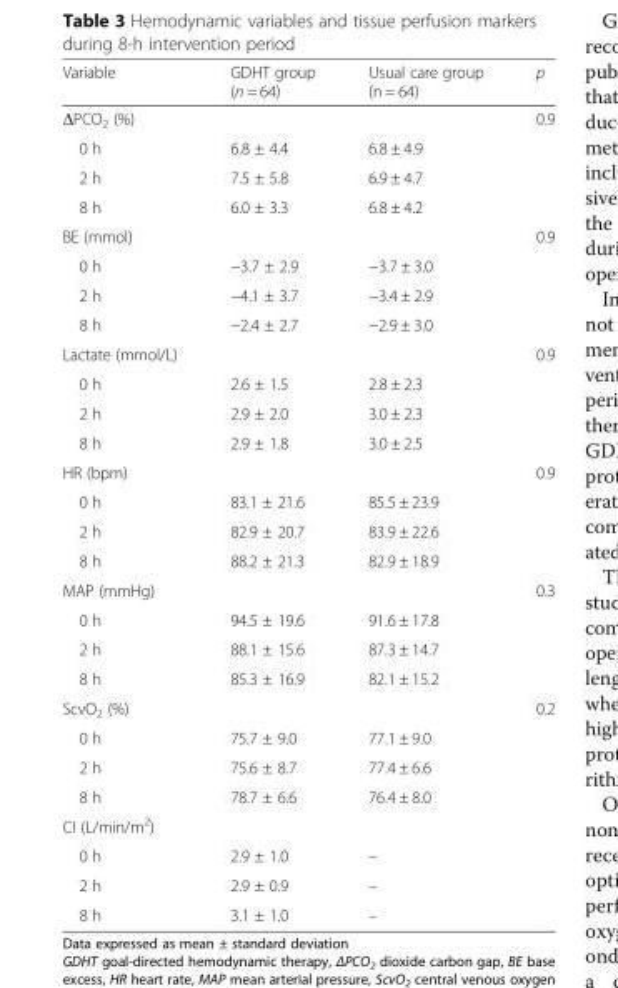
<table><thead><tr><td>Variable</td><td>GDHT group (n = 64)</td><td>Usual care group (n = 64)</td><td>p</td></tr></thead><tbody><tr><td>ΔPCO<sub>2</sub> (%)</td><td></td><td></td><td>0.9</td></tr><tr><td>0 h</td><td>6.8 ± 4.4</td><td>6.8 ± 4.9</td><td></td></tr><tr><td>2 h</td><td>7.5 ± 5.8</td><td>6.9 ± 4.7</td><td></td></tr><tr><td>8 h</td><td>6.0 ± 3.3</td><td>6.8 ± 4.2</td><td></td></tr><tr><td>BE (mmol)</td><td></td><td></td><td>0.9</td></tr><tr><td>0 h</td><td>−3.7 ± 2.9</td><td>−3.7 ± 3.0</td><td></td></tr><tr><td>2 h</td><td>−4.1 ± 3.7</td><td>−3.4 ± 2.9</td><td></td></tr><tr><td>8 h</td><td>−2.4 ± 2.7</td><td>−2.9 ± 3.0</td><td></td></tr><tr><td>Lactate (mmol/L)</td><td></td><td></td><td>0.9</td></tr><tr><td>0 h</td><td>2.6 ± 1.5</td><td>2.8 ± 2.3</td><td></td></tr><tr><td>2 h</td><td>2.9 ± 2.0</td><td>3.0 ± 2.3</td><td></td></tr><tr><td>8 h</td><td>2.9 ± 1.8</td><td>3.0 ± 2.5</td><td></td></tr><tr><td>HR (bpm)</td><td></td><td></td><td>0.9</td></tr><tr><td>0 h</td><td>83.1 ± 21.6</td><td>85.5 ± 23.9</td><td></td></tr><tr><td>2 h</td><td>82.9 ± 20.7</td><td>83.9 ± 22.6</td><td></td></tr><tr><td>8 h</td><td>88.2 ± 21.3</td><td>82.9 ± 18.9</td><td></td></tr><tr><td>MAP (mmHg)</td><td></td><td></td><td>0.3</td></tr><tr><td>0 h</td><td>94.5 ± 19.6</td><td>91.6 ± 17.8</td><td></td></tr><tr><td>2 h</td><td>88.1 ± 15.6</td><td>87.3 ± 14.7</td><td></td></tr><tr><td>8 h</td><td>85.3 ± 16.9</td><td>82.1 ± 15.2</td><td></td></tr><tr><td>ScvO<sub>2</sub> (%)</td><td></td><td></td><td>0.2</td></tr><tr><td>0 h</td><td>75.7 ± 9.0</td><td>77.1 ± 9.0</td><td></td></tr><tr><td>2 h</td><td>75.6 ± 8.7</td><td>77.4 ± 6.6</td><td></td></tr><tr><td>8 h</td><td>78.7 ± 6.6</td><td>76.4 ± 8.0</td><td></td></tr><tr><td colspan="4">CI (L/min/m<sup>2</sup>)</td></tr><tr><td>0 h</td><td>2.9 ± 1.0</td><td>–</td><td></td></tr><tr><td>2 h</td><td>2.9 ± 0.9</td><td>–</td><td></td></tr><tr><td>8 h</td><td>3.1 ± 1.0</td><td>–</td><td></td></tr></tbody></table>